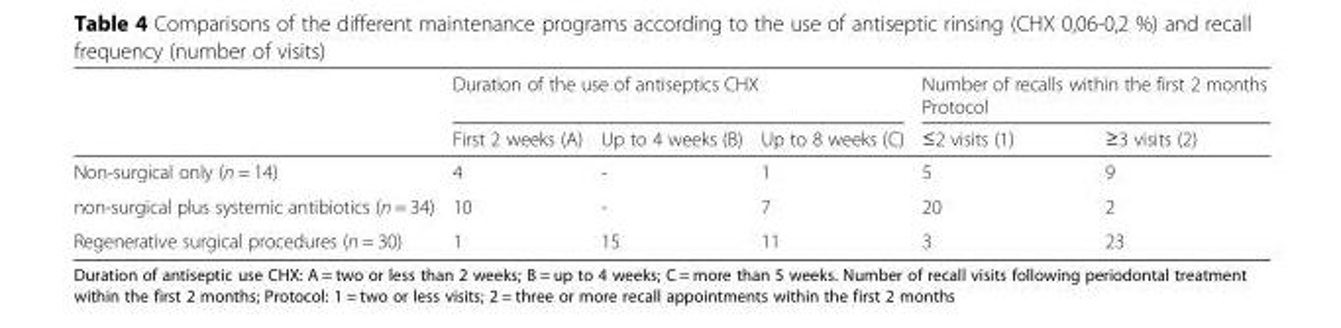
<table><thead><tr><td rowspan="2"></td><td colspan="3">Duration of the use of antiseptics CHX</td><td colspan="2">Number of recalls within the first 2 months Protocol</td></tr><tr><td>First 2 weeks (A)</td><td>Up to 4 weeks (B)</td><td>Up to 8 weeks (C)</td><td>≤2 visits (1)</td><td>≥3 visits (2)</td></tr></thead><tbody><tr><td>Non-surgical only (n = 14)</td><td>4</td><td>-</td><td>1</td><td>5</td><td>9</td></tr><tr><td>non-surgical plus systemic antibiotics (n = 34)</td><td>10</td><td>-</td><td>7</td><td>20</td><td>2</td></tr><tr><td>Regenerative surgical procedures (n = 30)</td><td>1</td><td>15</td><td>11</td><td>3</td><td>23</td></tr></tbody></table>